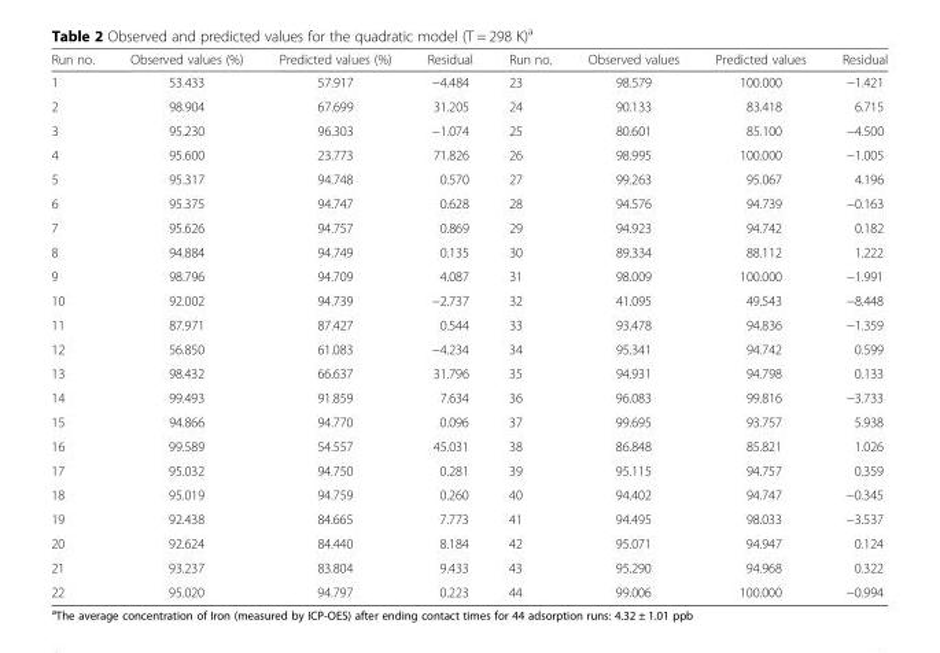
<table><thead><tr><td>Run no.</td><td>Observed values (%)</td><td>Predicted values (%)</td><td>Residual</td><td>Run no.</td><td>Observed values</td><td>Predicted values</td><td>Residual</td></tr></thead><tbody><tr><td>1</td><td>53.433</td><td>57.917</td><td>−4.484</td><td>23</td><td>98.579</td><td>100.000</td><td>−1.421</td></tr><tr><td>2</td><td>98.904</td><td>67.699</td><td>31.205</td><td>24</td><td>90.133</td><td>83.418</td><td>6.715</td></tr><tr><td>3</td><td>95.230</td><td>96.303</td><td>−1.074</td><td>25</td><td>80.601</td><td>85.100</td><td>−4.500</td></tr><tr><td>4</td><td>95.600</td><td>23.773</td><td>71.826</td><td>26</td><td>98.995</td><td>100.000</td><td>−1.005</td></tr><tr><td>5</td><td>95.317</td><td>94.748</td><td>0.570</td><td>27</td><td>99.263</td><td>95.067</td><td>4.196</td></tr><tr><td>6</td><td>95.375</td><td>94.747</td><td>0.628</td><td>28</td><td>94.576</td><td>94.739</td><td>−0.163</td></tr><tr><td>7</td><td>95.626</td><td>94.757</td><td>0.869</td><td>29</td><td>94.923</td><td>94.742</td><td>0.182</td></tr><tr><td>8</td><td>94.884</td><td>94.749</td><td>0.135</td><td>30</td><td>89.334</td><td>88.112</td><td>1.222</td></tr><tr><td>9</td><td>98.796</td><td>94.709</td><td>4.087</td><td>31</td><td>98.009</td><td>100.000</td><td>−1.991</td></tr><tr><td>10</td><td>92.002</td><td>94.739</td><td>−2.737</td><td>32</td><td>41.095</td><td>49.543</td><td>−8.448</td></tr><tr><td>11</td><td>87.971</td><td>87.427</td><td>0.544</td><td>33</td><td>93.478</td><td>94.836</td><td>−1.359</td></tr><tr><td>12</td><td>56.850</td><td>61.083</td><td>−4.234</td><td>34</td><td>95.341</td><td>94.742</td><td>0.599</td></tr><tr><td>13</td><td>98.432</td><td>66.637</td><td>31.796</td><td>35</td><td>94.931</td><td>94.798</td><td>0.133</td></tr><tr><td>14</td><td>99.493</td><td>91.859</td><td>7.634</td><td>36</td><td>96.083</td><td>99.816</td><td>−3.733</td></tr><tr><td>15</td><td>94.866</td><td>94.770</td><td>0.096</td><td>37</td><td>99.695</td><td>93.757</td><td>5.938</td></tr><tr><td>16</td><td>99.589</td><td>54.557</td><td>45.031</td><td>38</td><td>86.848</td><td>85.821</td><td>1.026</td></tr><tr><td>17</td><td>95.032</td><td>94.750</td><td>0.281</td><td>39</td><td>95.115</td><td>94.757</td><td>0.359</td></tr><tr><td>18</td><td>95.019</td><td>94.759</td><td>0.260</td><td>40</td><td>94.402</td><td>94.747</td><td>−0.345</td></tr><tr><td>19</td><td>92.438</td><td>84.665</td><td>7.773</td><td>41</td><td>94.495</td><td>98.033</td><td>−3.537</td></tr><tr><td>20</td><td>92.624</td><td>84.440</td><td>8.184</td><td>42</td><td>95.071</td><td>94.947</td><td>0.124</td></tr><tr><td>21</td><td>93.237</td><td>83.804</td><td>9.433</td><td>43</td><td>95.290</td><td>94.968</td><td>0.322</td></tr><tr><td>22</td><td>95.020</td><td>94.797</td><td>0.223</td><td>44</td><td>99.006</td><td>100.000</td><td>−0.994</td></tr></tbody></table>